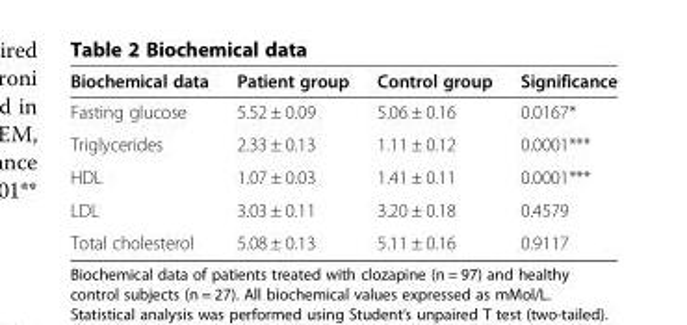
<table><thead><tr><td>Biochemical data</td><td>Patient group</td><td>Control group</td><td>Significance</td></tr></thead><tbody><tr><td>Fasting glucose</td><td>5.52 ± 0.09</td><td>5.06 ± 0.16</td><td>0.0167*</td></tr><tr><td>Triglycerides</td><td>2.33 ± 0.13</td><td>1.11 ± 0.12</td><td>0.0001***</td></tr><tr><td>HDL</td><td>1.07 ± 0.03</td><td>1.41 ± 0.11</td><td>0.0001***</td></tr><tr><td>LDL</td><td>3.03 ± 0.11</td><td>3.20 ± 0.18</td><td>0.4579</td></tr><tr><td>Total cholesterol</td><td>5.08 ± 0.13</td><td>5.11 ± 0.16</td><td>0.9117</td></tr></tbody></table>